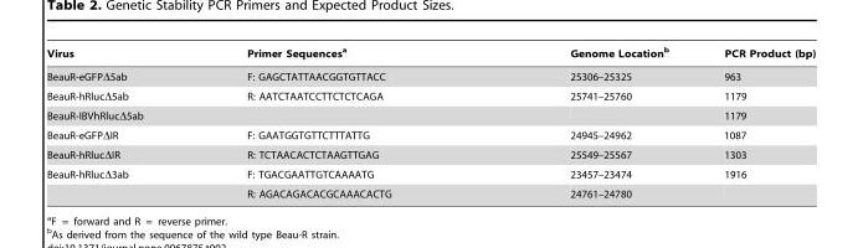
<table><thead><tr><td>Virus</td><td>Primer Sequences<sup>a</sup></td><td>Genome Location<sup>b</sup></td><td>PCR Product (bp)</td></tr></thead><tbody><tr><td>BeauR-eGFPΔ5ab</td><td>F: GAGCTATTAACGGTGTTACC</td><td>25306–25325</td><td>963</td></tr><tr><td>BeauR-hRlucΔ5ab</td><td>R: AATCTAATCCTTCTCTCAGA</td><td>25741–25760</td><td>1179</td></tr><tr><td>BeauR-IBVhRlucΔ5ab</td><td></td><td></td><td>1179</td></tr><tr><td>BeauR-eGFPΔIR</td><td>F: GAATGGTGTTCTTTATTG</td><td>24945–24962</td><td>1087</td></tr><tr><td>BeauR-hRlucΔIR</td><td>R: TCTAACACTCTAAGTTGAG</td><td>25549–25567</td><td>1303</td></tr><tr><td rowspan="2">BeauR-hRlucΔ3ab</td><td>F: TGACGAATTGTCAAAATG</td><td>23457–23474</td><td>1916</td></tr><tr><td>R: AGACAGACACGCAAACACTG</td><td>24761–24780</td><td></td></tr></tbody></table>